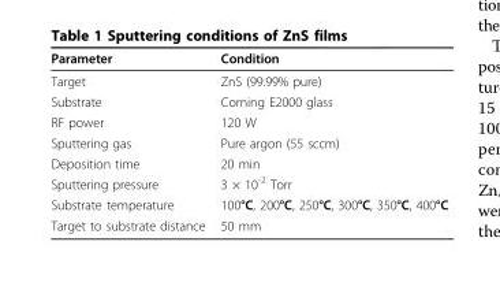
<table><thead><tr><td>Parameter</td><td>Condition</td></tr></thead><tbody><tr><td>Target</td><td>ZnS (99.99% pure)</td></tr><tr><td>Substrate</td><td>Corning E2000 glass</td></tr><tr><td>RF power</td><td>120 W</td></tr><tr><td>Sputtering gas</td><td>Pure argon (55 sccm)</td></tr><tr><td>Deposition time</td><td>20 min</td></tr><tr><td>Sputtering pressure</td><td>3 × 10<sup>-2</sup> Torr</td></tr><tr><td>Substrate temperature</td><td>100°C, 200°C, 250°C, 300°C, 350°C, 400°C</td></tr><tr><td>Target to substrate distance</td><td>50 mm</td></tr></tbody></table>